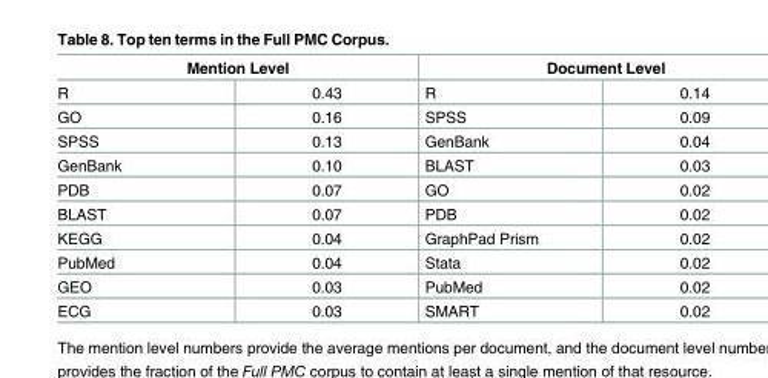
<table><thead><tr><td colspan="2">Mention Level</td><td colspan="2">Document Level</td></tr><tr><td>R</td><td>0.43</td><td>R</td><td>0.14</td></tr></thead><tbody><tr><td>GO</td><td>0.16</td><td>SPSS</td><td>0.09</td></tr><tr><td>SPSS</td><td>0.13</td><td>GenBank</td><td>0.04</td></tr><tr><td>GenBank</td><td>0.10</td><td>BLAST</td><td>0.03</td></tr><tr><td>PDB</td><td>0.07</td><td>GO</td><td>0.02</td></tr><tr><td>BLAST</td><td>0.07</td><td>PDB</td><td>0.02</td></tr><tr><td>KEGG</td><td>0.04</td><td>GraphPad Prism</td><td>0.02</td></tr><tr><td>PubMed</td><td>0.04</td><td>Stata</td><td>0.02</td></tr><tr><td>GEO</td><td>0.03</td><td>PubMed</td><td>0.02</td></tr><tr><td>ECG</td><td>0.03</td><td>SMART</td><td>0.02</td></tr></tbody></table>